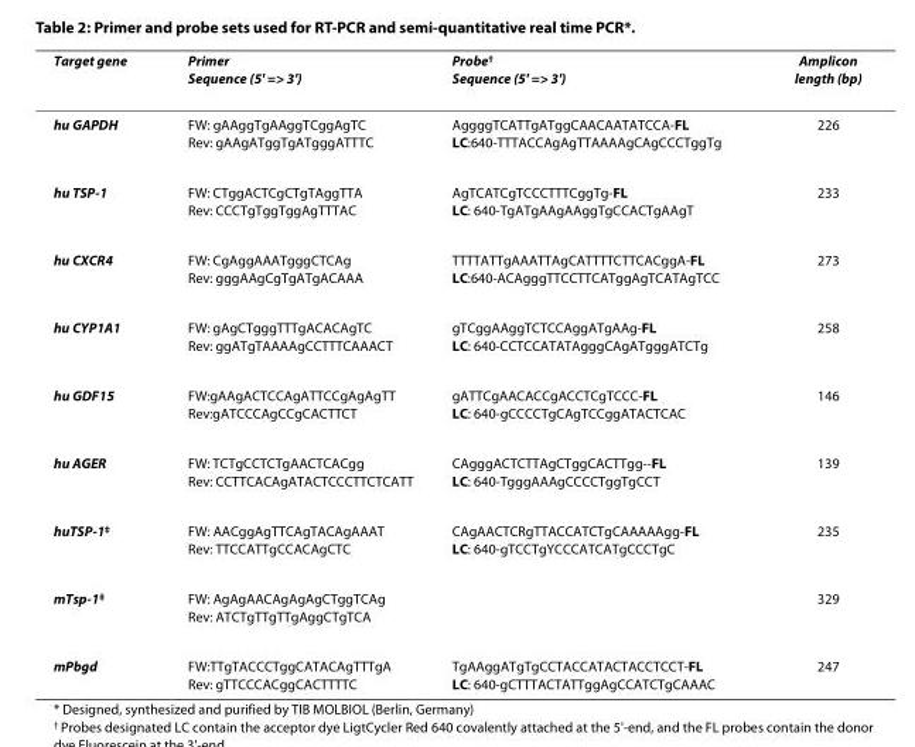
<table><thead><tr><td>Target gene</td><td>Primer Sequence (5&#x27; =&gt; 3&#x27;)</td><td>Probe<sup>†</sup> Sequence (5&#x27; =&gt; 3&#x27;)</td><td>Amplicon length (bp)</td></tr></thead><tbody><tr><td>hu GAPDH</td><td>FW: gAAggTgAAggTCggAgTC Rev: gAAgATggTgATgggATTTC</td><td>AggggTCATTgATggCAACAATATCCA-FL LC:640-TTTACCAgAgTTAAAAgCAgCCCTggTg</td><td>226</td></tr><tr><td>hu TSP-1</td><td>FW: CTggACTCgCTgTAggTTA Rev: CCCTgTggTggAgTTTAC</td><td>AgTCATCgTCCCTTTCggTg-FL LC: 640-TgATgAAgAAggTgCCACTgAAgT</td><td>233</td></tr><tr><td>hu CXCR4</td><td>FW: CgAggAAATgggCTCAg Rev: gggAAgCgTgATgACAAA</td><td>TTTTATTgAAATTAgCATTTTCTTCACggA-FL LC:640-ACAgggTTCCTTCATggAgTCATAgTCC</td><td>273</td></tr><tr><td>hu CYP1A1</td><td>FW: gAgCTgggTTTgACACAgTC Rev: ggATgTAAAAgCCTTTCAAACT</td><td>gTCggAAggTCTCCAggATgAAg-FL LC: 640-CCTCCATATAgggCAgATgggATCTg</td><td>258</td></tr><tr><td>hu GDF15</td><td>FW:gAAgACTCCAgATTCCgAgAgTT Rev:gATCCCAgCCgCACTTCT</td><td>gATTCgAACACCgACCTCgTCCC-FL LC: 640-gCCCCTgCAgTCCggATACTCAC</td><td>146</td></tr><tr><td>hu AGER</td><td>FW: TCTgCCTCTgAACTCACgg Rev: CCTTCACAgATACTCCCTTCTCATT</td><td>CAgggACTCTTAgCTggCACTTgg--FL LC: 640-TgggAAAgCCCCTggTgCCT</td><td>139</td></tr><tr><td>huTSP-1<sup>‡</sup></td><td>FW: AACggAgTTCAgTACAgAAAT Rev: TTCCATTgCCACAgCTC</td><td>CAgAACTCRgTTACCATCTgCAAAAAgg-FL LC: 640-gTCCTgYCCCATCATgCCCTgC</td><td>235</td></tr><tr><td>mTsp-1<sup>‡</sup></td><td>FW: AgAgAACAgAgAgCTggTCAg Rev: ATCTgTTgTTgAggCTgTCA</td><td></td><td>329</td></tr><tr><td>mPbgd</td><td>FW:TTgTACCCTggCATACAgTTTgA Rev: gTTCCCACggCACTTTTC</td><td>TgAAggATgTgCCTACCATACTACCTCCT-FL LC: 640-gCTTTACTATTggAgCCATCTgCAAAC</td><td>247</td></tr></tbody></table>